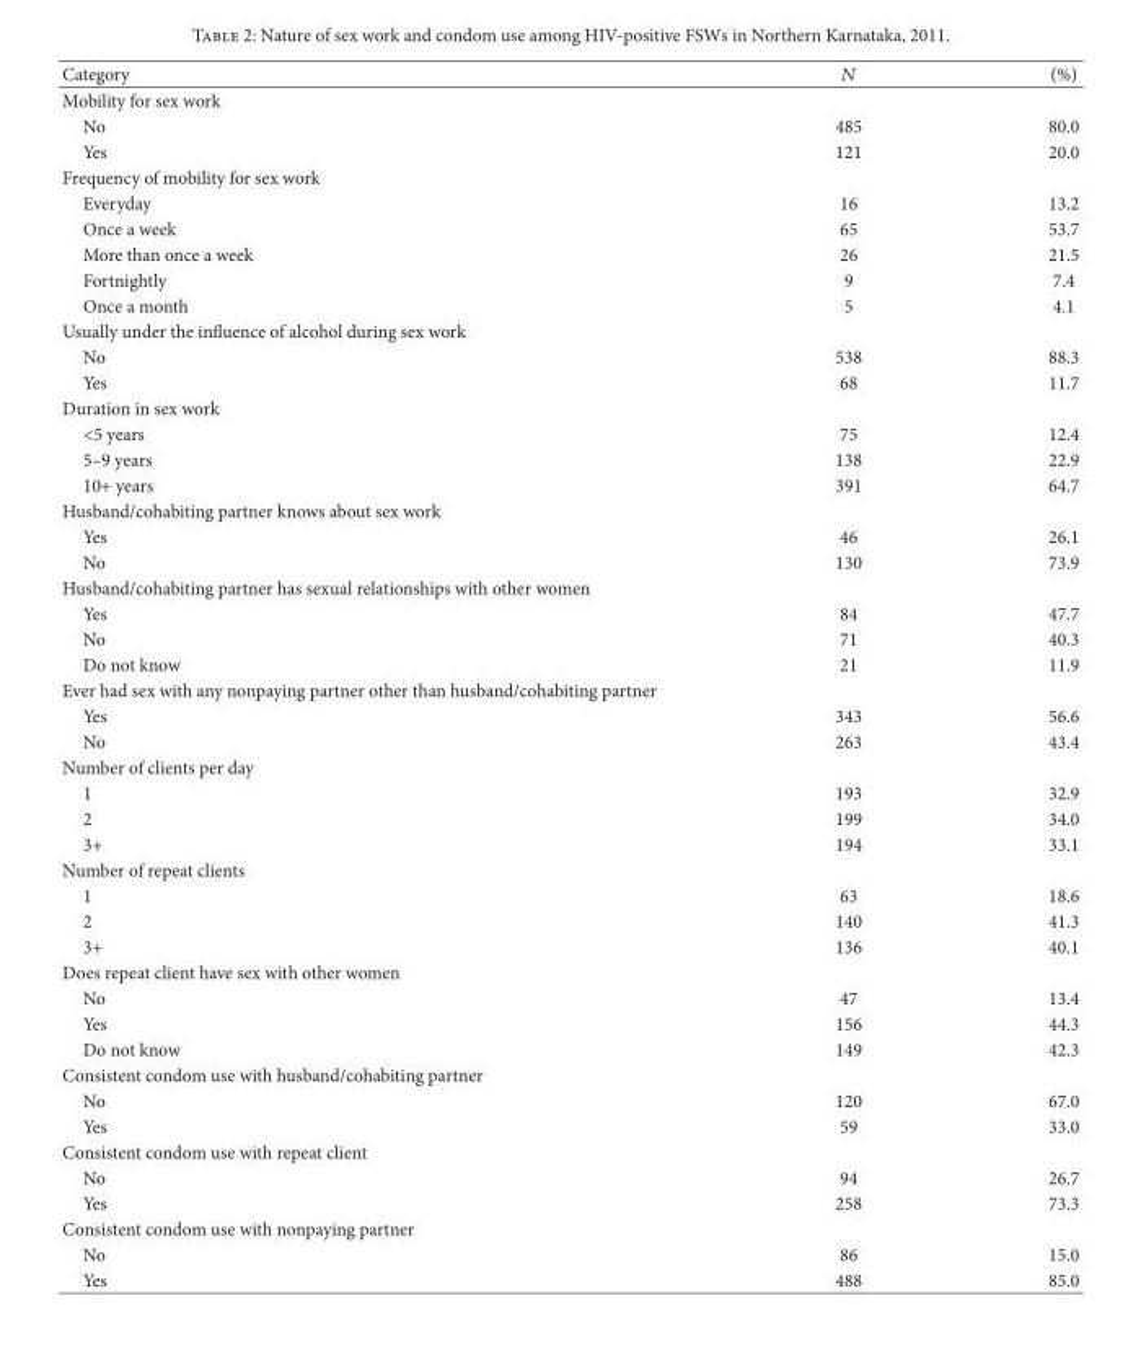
<table><thead><tr><td>Category</td><td>𝑁𝑁</td><td>(%)</td></tr></thead><tbody><tr><td colspan="3">Mobility for sex work</td></tr><tr><td>No</td><td>485</td><td>80.0</td></tr><tr><td>Yes</td><td>121</td><td>20.0</td></tr><tr><td colspan="3">Frequency of mobility for sex work</td></tr><tr><td>Everyday</td><td>16</td><td>13.2</td></tr><tr><td>Once a week</td><td>65</td><td>53.7</td></tr><tr><td>More than once a week</td><td>26</td><td>21.5</td></tr><tr><td>Fortnightly</td><td>9</td><td>7.4</td></tr><tr><td>Once a month</td><td>5</td><td>4.1</td></tr><tr><td colspan="3">�sually under the in�uence of alcohol during sex work</td></tr><tr><td>No</td><td>538</td><td>88.3</td></tr><tr><td>Yes</td><td>68</td><td>11.7</td></tr><tr><td colspan="3">Duration in sex work</td></tr><tr><td>&lt;5 years</td><td>75</td><td>12.4</td></tr><tr><td>5–9 years</td><td>138</td><td>22.9</td></tr><tr><td>10+ years</td><td>391</td><td>64.7</td></tr><tr><td colspan="3">Husband/cohabiting partner knows about sex work</td></tr><tr><td>Yes</td><td>46</td><td>26.1</td></tr><tr><td>No</td><td>130</td><td>73.9</td></tr><tr><td colspan="3">Husband/cohabiting partner has sexual relationships with other women</td></tr><tr><td>Yes</td><td>84</td><td>47.7</td></tr><tr><td>No</td><td>71</td><td>40.3</td></tr><tr><td>Do not know</td><td>21</td><td>11.9</td></tr><tr><td colspan="3">Ever had sex with any nonpaying partner other than husband/cohabiting partner</td></tr><tr><td>Yes</td><td>343</td><td>56.6</td></tr><tr><td>No</td><td>263</td><td>43.4</td></tr><tr><td colspan="3">Number of clients per day</td></tr><tr><td>1</td><td>193</td><td>32.9</td></tr><tr><td>2</td><td>199</td><td>34.0</td></tr><tr><td>3+</td><td>194</td><td>33.1</td></tr><tr><td colspan="3">Number of repeat clients</td></tr><tr><td>1</td><td>63</td><td>18.6</td></tr><tr><td>2</td><td>140</td><td>41.3</td></tr><tr><td>3+</td><td>136</td><td>40.1</td></tr><tr><td colspan="3">Does repeat client have sex with other women</td></tr><tr><td>No</td><td>47</td><td>13.4</td></tr><tr><td>Yes</td><td>156</td><td>44.3</td></tr><tr><td>Do not know</td><td>149</td><td>42.3</td></tr><tr><td colspan="3">Consistent condom use with husband/cohabiting partner</td></tr><tr><td>No</td><td>120</td><td>67.0</td></tr><tr><td>Yes</td><td>59</td><td>33.0</td></tr><tr><td colspan="3">Consistent condom use with repeat client</td></tr><tr><td>No</td><td>94</td><td>26.7</td></tr><tr><td>Yes</td><td>258</td><td>73.3</td></tr><tr><td colspan="3">Consistent condom use with nonpaying partner</td></tr><tr><td>No</td><td>86</td><td>15.0</td></tr><tr><td>Yes</td><td>488</td><td>85.0</td></tr></tbody></table>